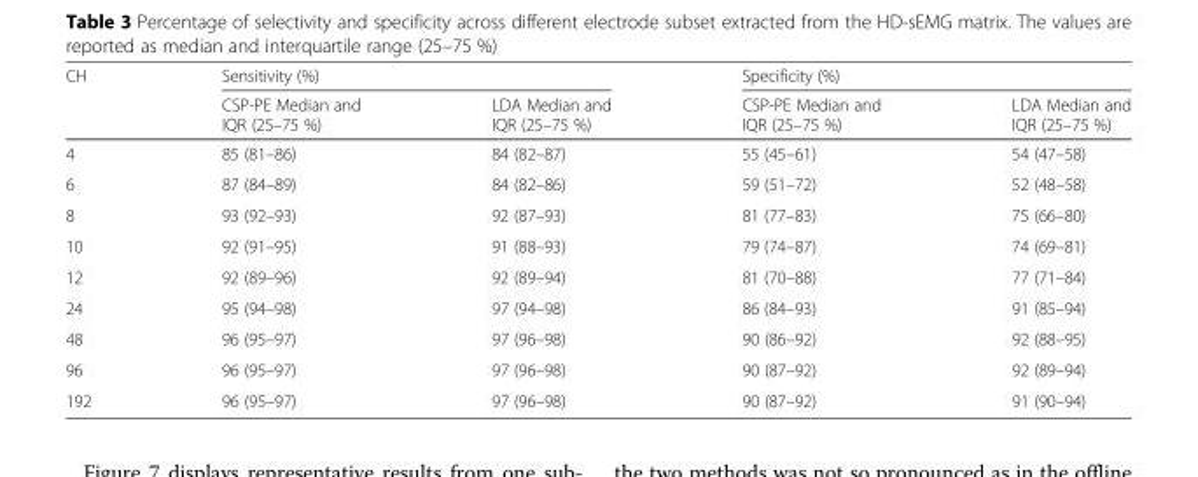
<table><thead><tr><td rowspan="2">CH</td><td colspan="2">Sensitivity (%)</td><td colspan="2">Specificity (%)</td></tr><tr><td>CSP-PE Median and IQR (25–75 %)</td><td>LDA Median and IQR (25–75 %)</td><td>CSP-PE Median and IQR (25–75 %)</td><td>LDA Median and IQR (25–75 %)</td></tr></thead><tbody><tr><td>4</td><td>85 (81–86)</td><td>84 (82–87)</td><td>55 (45–61)</td><td>54 (47–58)</td></tr><tr><td>6</td><td>87 (84–89)</td><td>84 (82–86)</td><td>59 (51–72)</td><td>52 (48–58)</td></tr><tr><td>8</td><td>93 (92–93)</td><td>92 (87–93)</td><td>81 (77–83)</td><td>75 (66–80)</td></tr><tr><td>10</td><td>92 (91–95)</td><td>91 (88–93)</td><td>79 (74–87)</td><td>74 (69–81)</td></tr><tr><td>12</td><td>92 (89–96)</td><td>92 (89–94)</td><td>81 (70–88)</td><td>77 (71–84)</td></tr><tr><td>24</td><td>95 (94–98)</td><td>97 (94–98)</td><td>86 (84–93)</td><td>91 (85–94)</td></tr><tr><td>48</td><td>96 (95–97)</td><td>97 (96–98)</td><td>90 (86–92)</td><td>92 (88–95)</td></tr><tr><td>96</td><td>96 (95–97)</td><td>97 (96–98)</td><td>90 (87–92)</td><td>92 (89–94)</td></tr><tr><td>192</td><td>96 (95–97)</td><td>97 (96–98)</td><td>90 (87–92)</td><td>91 (90–94)</td></tr></tbody></table>